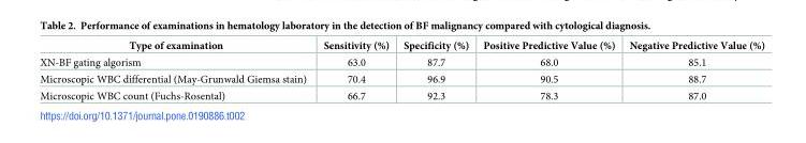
<table><thead><tr><td>Type of examination</td><td>Sensitivity (%)</td><td>Specificity (%)</td><td>Positive Predictive Value (%)</td><td>Negative Predictive Value (%)</td></tr></thead><tbody><tr><td>XN-BF gating algorism</td><td>63.0</td><td>87.7</td><td>68.0</td><td>85.1</td></tr><tr><td>Microscopic WBC differential (May-Grunwald Giemsa stain)</td><td>70.4</td><td>96.9</td><td>90.5</td><td>88.7</td></tr><tr><td>Microscopic WBC count (Fuchs-Rosental)</td><td>66.7</td><td>92.3</td><td>78.3</td><td>87.0</td></tr></tbody></table>